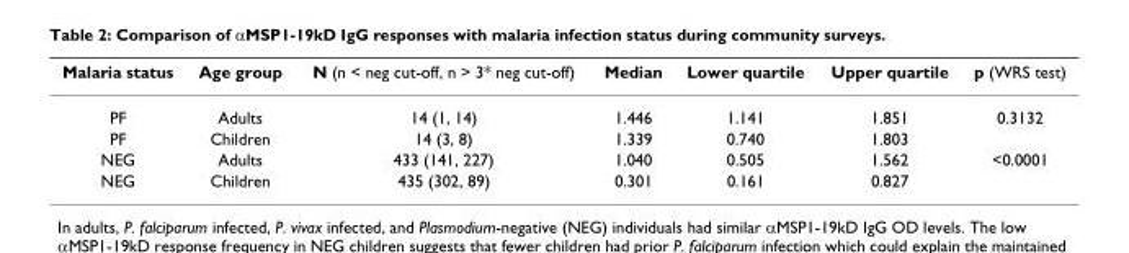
<table><thead><tr><td>Malaria status</td><td>Age group</td><td>N (n &lt; neg cut-off, n &gt; 3* neg cut-off)</td><td>Median</td><td>Lower quartile</td><td>Upper quartile</td><td>p (WRS test)</td></tr></thead><tbody><tr><td>PF</td><td>Adults</td><td>14 (1, 14)</td><td>1.446</td><td>1.141</td><td>1.851</td><td>0.3132</td></tr><tr><td>PF</td><td>Children</td><td>14 (3, 8)</td><td>1.339</td><td>0.740</td><td>1.803</td><td></td></tr><tr><td>NEG</td><td>Adults</td><td>433 (141, 227)</td><td>1.040</td><td>0.505</td><td>1.562</td><td>&lt;0.0001</td></tr><tr><td>NEG</td><td>Children</td><td>435 (302, 89)</td><td>0.301</td><td>0.161</td><td>0.827</td><td></td></tr></tbody></table>